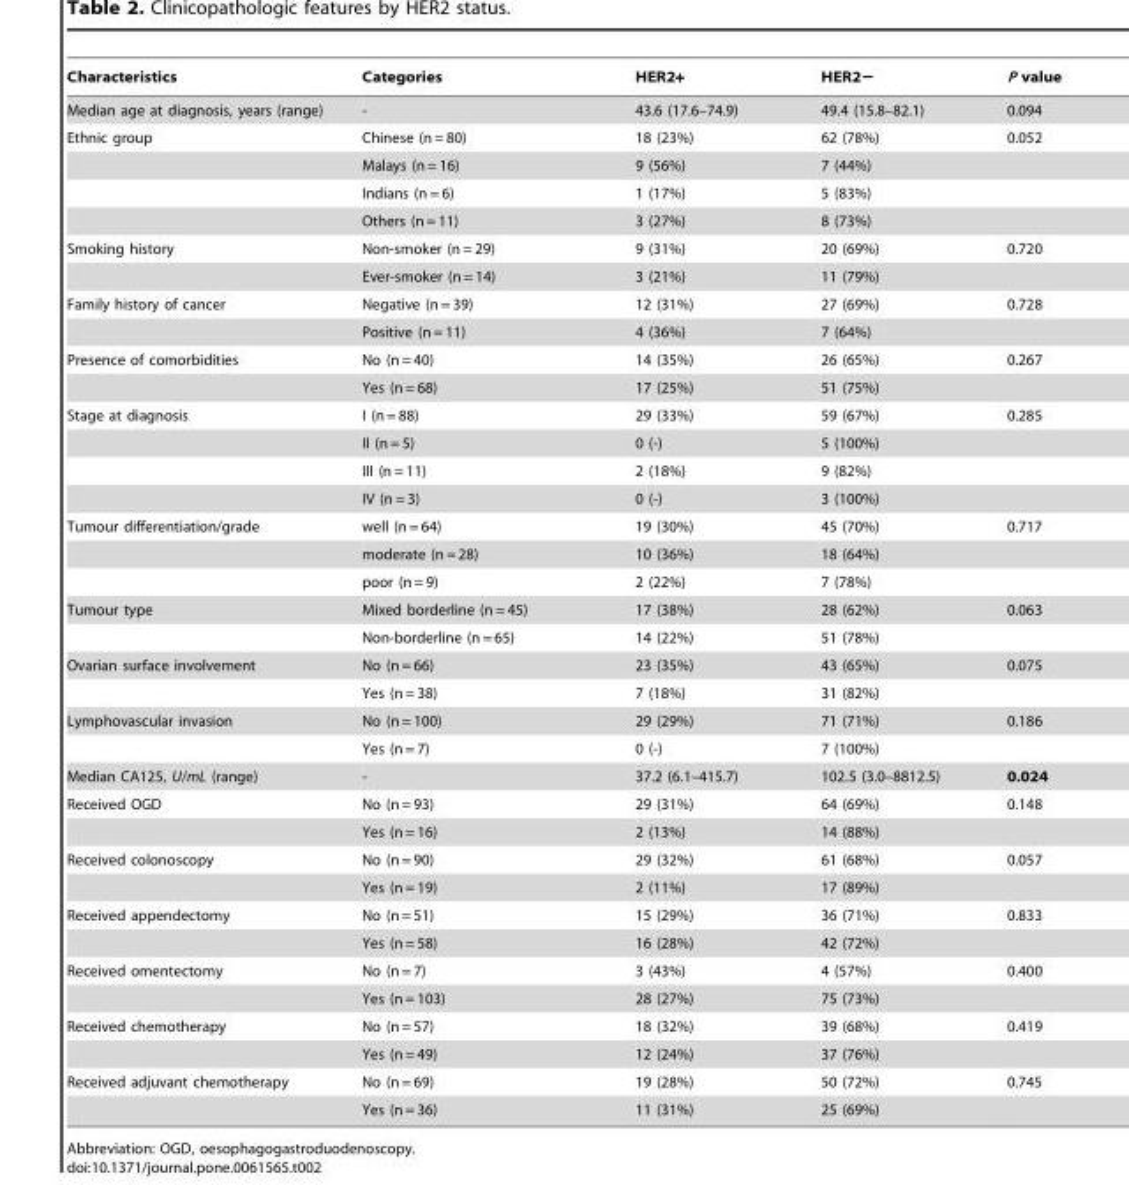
<table><thead><tr><td>Characteristics</td><td>Categories</td><td>HER2+</td><td>HER2−</td><td>P value</td></tr></thead><tbody><tr><td>Median age at diagnosis, years (range)</td><td>-</td><td>43.6 (17.6–74.9)</td><td>49.4 (15.8–82.1)</td><td>0.094</td></tr><tr><td rowspan="4">Ethnic group</td><td>Chinese (n = 80)</td><td>18 (23%)</td><td>62 (78%)</td><td>0.052</td></tr><tr><td>Malays (n = 16)</td><td>9 (56%)</td><td>7 (44%)</td><td></td></tr><tr><td>Indians (n = 6)</td><td>1 (17%)</td><td>5 (83%)</td><td></td></tr><tr><td>Others (n = 11)</td><td>3 (27%)</td><td>8 (73%)</td><td></td></tr><tr><td rowspan="2">Smoking history</td><td>Non-smoker (n = 29)</td><td>9 (31%)</td><td>20 (69%)</td><td>0.720</td></tr><tr><td>Ever-smoker (n = 14)</td><td>3 (21%)</td><td>11 (79%)</td><td></td></tr><tr><td rowspan="2">Family history of cancer</td><td>Negative (n = 39)</td><td>12 (31%)</td><td>27 (69%)</td><td>0.728</td></tr><tr><td>Positive (n = 11)</td><td>4 (36%)</td><td>7 (64%)</td><td></td></tr><tr><td rowspan="2">Presence of comorbidities</td><td>No (n = 40)</td><td>14 (35%)</td><td>26 (65%)</td><td>0.267</td></tr><tr><td>Yes (n = 68)</td><td>17 (25%)</td><td>51 (75%)</td><td></td></tr><tr><td rowspan="4">Stage at diagnosis</td><td>I (n = 88)</td><td>29 (33%)</td><td>59 (67%)</td><td>0.285</td></tr><tr><td>II (n = 5)</td><td>0 (-)</td><td>5 (100%)</td><td></td></tr><tr><td>III (n = 11)</td><td>2 (18%)</td><td>9 (82%)</td><td></td></tr><tr><td>IV (n = 3)</td><td>0 (-)</td><td>3 (100%)</td><td></td></tr><tr><td rowspan="3">Tumour differentiation/grade</td><td>well (n = 64)</td><td>19 (30%)</td><td>45 (70%)</td><td>0.717</td></tr><tr><td>moderate (n = 28)</td><td>10 (36%)</td><td>18 (64%)</td><td></td></tr><tr><td>poor (n = 9)</td><td>2 (22%)</td><td>7 (78%)</td><td></td></tr><tr><td rowspan="2">Tumour type</td><td>Mixed borderline (n = 45)</td><td>17 (38%)</td><td>28 (62%)</td><td>0.063</td></tr><tr><td>Non-borderline (n = 65)</td><td>14 (22%)</td><td>51 (78%)</td><td></td></tr><tr><td rowspan="2">Ovarian surface involvement</td><td>No (n = 66)</td><td>23 (35%)</td><td>43 (65%)</td><td>0.075</td></tr><tr><td>Yes (n = 38)</td><td>7 (18%)</td><td>31 (82%)</td><td></td></tr><tr><td rowspan="2">Lymphovascular invasion</td><td>No (n = 100)</td><td>29 (29%)</td><td>71 (71%)</td><td>0.186</td></tr><tr><td>Yes (n = 7)</td><td>0 (-)</td><td>7 (100%)</td><td></td></tr><tr><td>Median CA125, U/mL (range)</td><td>-</td><td>37.2 (6.1–415.7)</td><td>102.5 (3.0–8812.5)</td><td>0.024</td></tr><tr><td rowspan="2">Received OGD</td><td>No (n = 93)</td><td>29 (31%)</td><td>64 (69%)</td><td>0.148</td></tr><tr><td>Yes (n = 16)</td><td>2 (13%)</td><td>14 (88%)</td><td></td></tr><tr><td rowspan="2">Received colonoscopy</td><td>No (n = 90)</td><td>29 (32%)</td><td>61 (68%)</td><td>0.057</td></tr><tr><td>Yes (n = 19)</td><td>2 (11%)</td><td>17 (89%)</td><td></td></tr><tr><td rowspan="2">Received appendectomy</td><td>No (n = 51)</td><td>15 (29%)</td><td>36 (71%)</td><td>0.833</td></tr><tr><td>Yes (n = 58)</td><td>16 (28%)</td><td>42 (72%)</td><td></td></tr><tr><td rowspan="2">Received omentectomy</td><td>No (n = 7)</td><td>3 (43%)</td><td>4 (57%)</td><td>0.400</td></tr><tr><td>Yes (n = 103)</td><td>28 (27%)</td><td>75 (73%)</td><td></td></tr><tr><td rowspan="2">Received chemotherapy</td><td>No (n = 57)</td><td>18 (32%)</td><td>39 (68%)</td><td>0.419</td></tr><tr><td>Yes (n = 49)</td><td>12 (24%)</td><td>37 (76%)</td><td></td></tr><tr><td rowspan="2">Received adjuvant chemotherapy</td><td>No (n = 69)</td><td>19 (28%)</td><td>50 (72%)</td><td>0.745</td></tr><tr><td>Yes (n = 36)</td><td>11 (31%)</td><td>25 (69%)</td><td></td></tr></tbody></table>